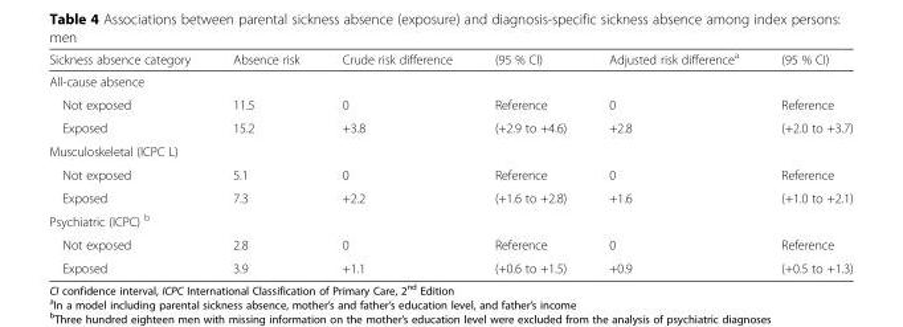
<table><thead><tr><td>Sickness absence category</td><td>Absence risk</td><td>Crude risk difference</td><td>(95 % CI)</td><td>Adjusted risk difference<sup>a</sup></td><td>(95 % CI)</td></tr></thead><tbody><tr><td colspan="6">All-cause absence</td></tr><tr><td>Not exposed</td><td>11.5</td><td>0</td><td>Reference</td><td>0</td><td>Reference</td></tr><tr><td>Exposed</td><td>15.2</td><td>+3.8</td><td>(+2.9 to +4.6)</td><td>+2.8</td><td>(+2.0 to +3.7)</td></tr><tr><td colspan="6">Musculoskeletal (ICPC L)</td></tr><tr><td>Not exposed</td><td>5.1</td><td>0</td><td>Reference</td><td>0</td><td>Reference</td></tr><tr><td>Exposed</td><td>7.3</td><td>+2.2</td><td>(+1.6 to +2.8)</td><td>+1.6</td><td>(+1.0 to +2.1)</td></tr><tr><td colspan="6">Psychiatric (ICPC) <sup>b</sup></td></tr><tr><td>Not exposed</td><td>2.8</td><td>0</td><td>Reference</td><td>0</td><td>Reference</td></tr><tr><td>Exposed</td><td>3.9</td><td>+1.1</td><td>(+0.6 to +1.5)</td><td>+0.9</td><td>(+0.5 to +1.3)</td></tr></tbody></table>